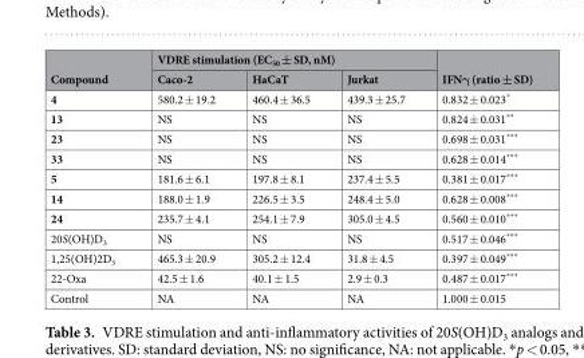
<table><thead><tr><td rowspan="2">Compound</td><td colspan="3">VDRE stimulation (EC<sub>50</sub> ± SD, nM)</td><td rowspan="2">IFNγ (ratio ± SD)</td></tr><tr><td>Caco-2</td><td>HaCaT</td><td>Jurkat</td></tr></thead><tbody><tr><td>4</td><td>580.2 ± 19.2</td><td>460.4 ± 36.5</td><td>439.3 ± 25.7</td><td>0.832 ± 0.023*</td></tr><tr><td>13</td><td>NS</td><td>NS</td><td>NS</td><td>0.824 ± 0.031**</td></tr><tr><td>23</td><td>NS</td><td>NS</td><td>NS</td><td>0.698 ± 0.031***</td></tr><tr><td>33</td><td>NS</td><td>NS</td><td>NS</td><td>0.628 ± 0.014***</td></tr><tr><td>5</td><td>181.6 ± 6.1</td><td>197.8 ± 8.1</td><td>237.4 ± 5.5</td><td>0.381 ± 0.017***</td></tr><tr><td>14</td><td>188.0 ± 1.9</td><td>226.5 ± 3.5</td><td>248.4 ± 5.0</td><td>0.628 ± 0.008***</td></tr><tr><td>24</td><td>235.7 ± 4.1</td><td>254.1 ± 7.9</td><td>305.0 ± 4.5</td><td>0.560 ± 0.010***</td></tr><tr><td>20S(OH)D<sub>3</sub></td><td>NS</td><td>NS</td><td>NS</td><td>0.517 ± 0.046***</td></tr><tr><td>1,25(OH)2D<sub>3</sub></td><td>465.3 ± 20.9</td><td>305.2 ± 12.4</td><td>31.8 ± 4.5</td><td>0.397 ± 0.049***</td></tr><tr><td>22-Oxa</td><td>42.5 ± 1.6</td><td>40.1 ± 1.5</td><td>2.9 ± 0.3</td><td>0.487 ± 0.017***</td></tr><tr><td>Control</td><td>NA</td><td>NA</td><td>NA</td><td>1.000 ± 0.015</td></tr></tbody></table>